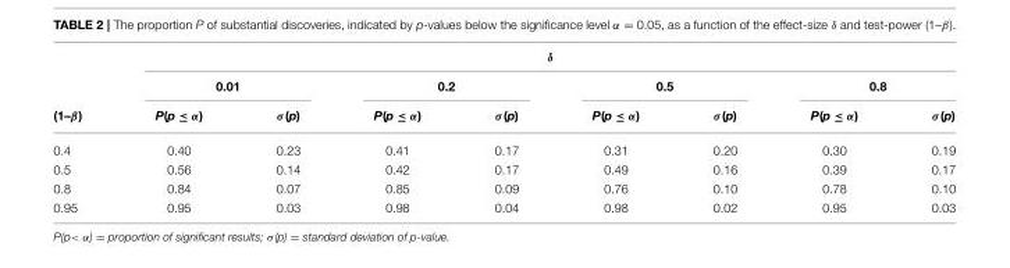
<table><thead><tr><td rowspan="3">(1–β)</td><td colspan="8">δ</td></tr><tr><td colspan="2">0.01</td><td colspan="2">0.2</td><td colspan="2">0.5</td><td colspan="2">0.8</td></tr><tr><td>P(p ≤ α)</td><td>σ(p)</td><td>P(p ≤ α)</td><td>σ(p)</td><td>P(p ≤ α)</td><td>σ(p)</td><td>P(p ≤ α)</td><td>σ(p)</td></tr></thead><tbody><tr><td>0.4</td><td>0.40</td><td>0.23</td><td>0.41</td><td>0.17</td><td>0.31</td><td>0.20</td><td>0.30</td><td>0.19</td></tr><tr><td>0.5</td><td>0.56</td><td>0.14</td><td>0.42</td><td>0.17</td><td>0.49</td><td>0.16</td><td>0.39</td><td>0.17</td></tr><tr><td>0.8</td><td>0.84</td><td>0.07</td><td>0.85</td><td>0.09</td><td>0.76</td><td>0.10</td><td>0.78</td><td>0.10</td></tr><tr><td>0.95</td><td>0.95</td><td>0.03</td><td>0.98</td><td>0.04</td><td>0.98</td><td>0.02</td><td>0.95</td><td>0.03</td></tr></tbody></table>